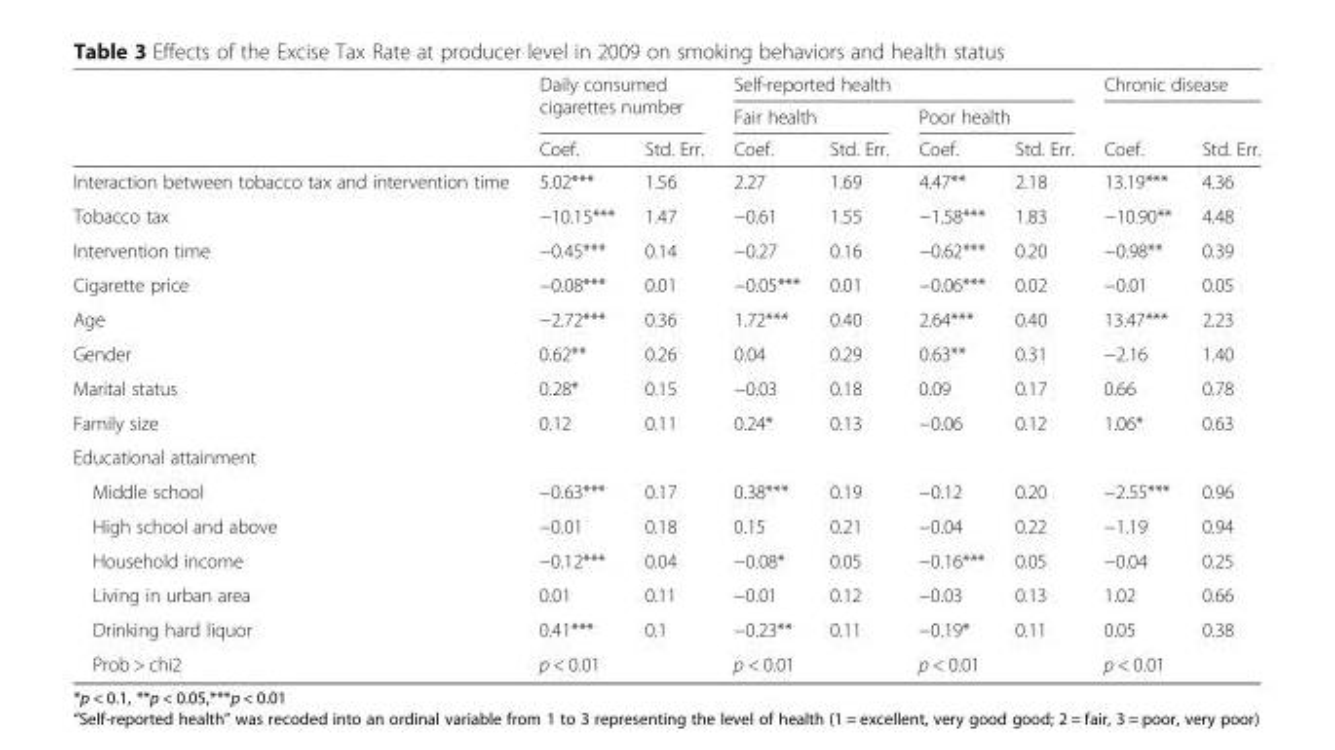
<table><thead><tr><td rowspan="3"></td><td rowspan="2" colspan="2">Daily consumed cigarettes number</td><td colspan="4">Self-reported health</td><td colspan="2">Chronic disease</td></tr><tr><td colspan="2">Fair health</td><td colspan="2">Poor health</td><td rowspan="2">Coef.</td><td rowspan="2">Std. Err.</td></tr><tr><td>Coef.</td><td>Std. Err.</td><td>Coef.</td><td>Std. Err.</td><td>Coef.</td><td>Std. Err.</td></tr></thead><tbody><tr><td>Interaction between tobacco tax and intervention time</td><td>5.02***</td><td>1.56</td><td>2.27</td><td>1.69</td><td>4.47**</td><td>2.18</td><td>13.19***</td><td>4.36</td></tr><tr><td>Tobacco tax</td><td>−10.15***</td><td>1.47</td><td>−0.61</td><td>1.55</td><td>−1.58***</td><td>1.83</td><td>−10.90**</td><td>4.48</td></tr><tr><td>Intervention time</td><td>−0.45***</td><td>0.14</td><td>−0.27</td><td>0.16</td><td>−0.62***</td><td>0.20</td><td>−0.98**</td><td>0.39</td></tr><tr><td>Cigarette price</td><td>−0.08***</td><td>0.01</td><td>−0.05***</td><td>0.01</td><td>−0.06***</td><td>0.02</td><td>−0.01</td><td>0.05</td></tr><tr><td>Age</td><td>−2.72***</td><td>0.36</td><td>1.72***</td><td>0.40</td><td>2.64***</td><td>0.40</td><td>13.47***</td><td>2.23</td></tr><tr><td>Gender</td><td>0.62**</td><td>0.26</td><td>0.04</td><td>0.29</td><td>0.63**</td><td>0.31</td><td>−2.16</td><td>1.40</td></tr><tr><td>Marital status</td><td>0.28*</td><td>0.15</td><td>−0.03</td><td>0.18</td><td>0.09</td><td>0.17</td><td>0.66</td><td>0.78</td></tr><tr><td>Family size</td><td>0.12</td><td>0.11</td><td>0.24*</td><td>0.13</td><td>−0.06</td><td>0.12</td><td>1.06*</td><td>0.63</td></tr><tr><td colspan="9">Educational attainment</td></tr><tr><td>Middle school</td><td>−0.63***</td><td>0.17</td><td>0.38***</td><td>0.19</td><td>−0.12</td><td>0.20</td><td>−2.55***</td><td>0.96</td></tr><tr><td>High school and above</td><td>−0.01</td><td>0.18</td><td>0.15</td><td>0.21</td><td>−0.04</td><td>0.22</td><td>−1.19</td><td>0.94</td></tr><tr><td>Household income</td><td>−0.12***</td><td>0.04</td><td>−0.08*</td><td>0.05</td><td>−0.16***</td><td>0.05</td><td>−0.04</td><td>0.25</td></tr><tr><td>Living in urban area</td><td>0.01</td><td>0.11</td><td>−0.01</td><td>0.12</td><td>−0.03</td><td>0.13</td><td>1.02</td><td>0.66</td></tr><tr><td>Drinking hard liquor</td><td>0.41***</td><td>0.1</td><td>−0.23**</td><td>0.11</td><td>−0.19*</td><td>0.11</td><td>0.05</td><td>0.38</td></tr><tr><td>Prob &gt; chi2</td><td colspan="2">p &lt; 0.01</td><td colspan="2">p &lt; 0.01</td><td colspan="2">p &lt; 0.01</td><td>p &lt; 0.01</td><td></td></tr></tbody></table>